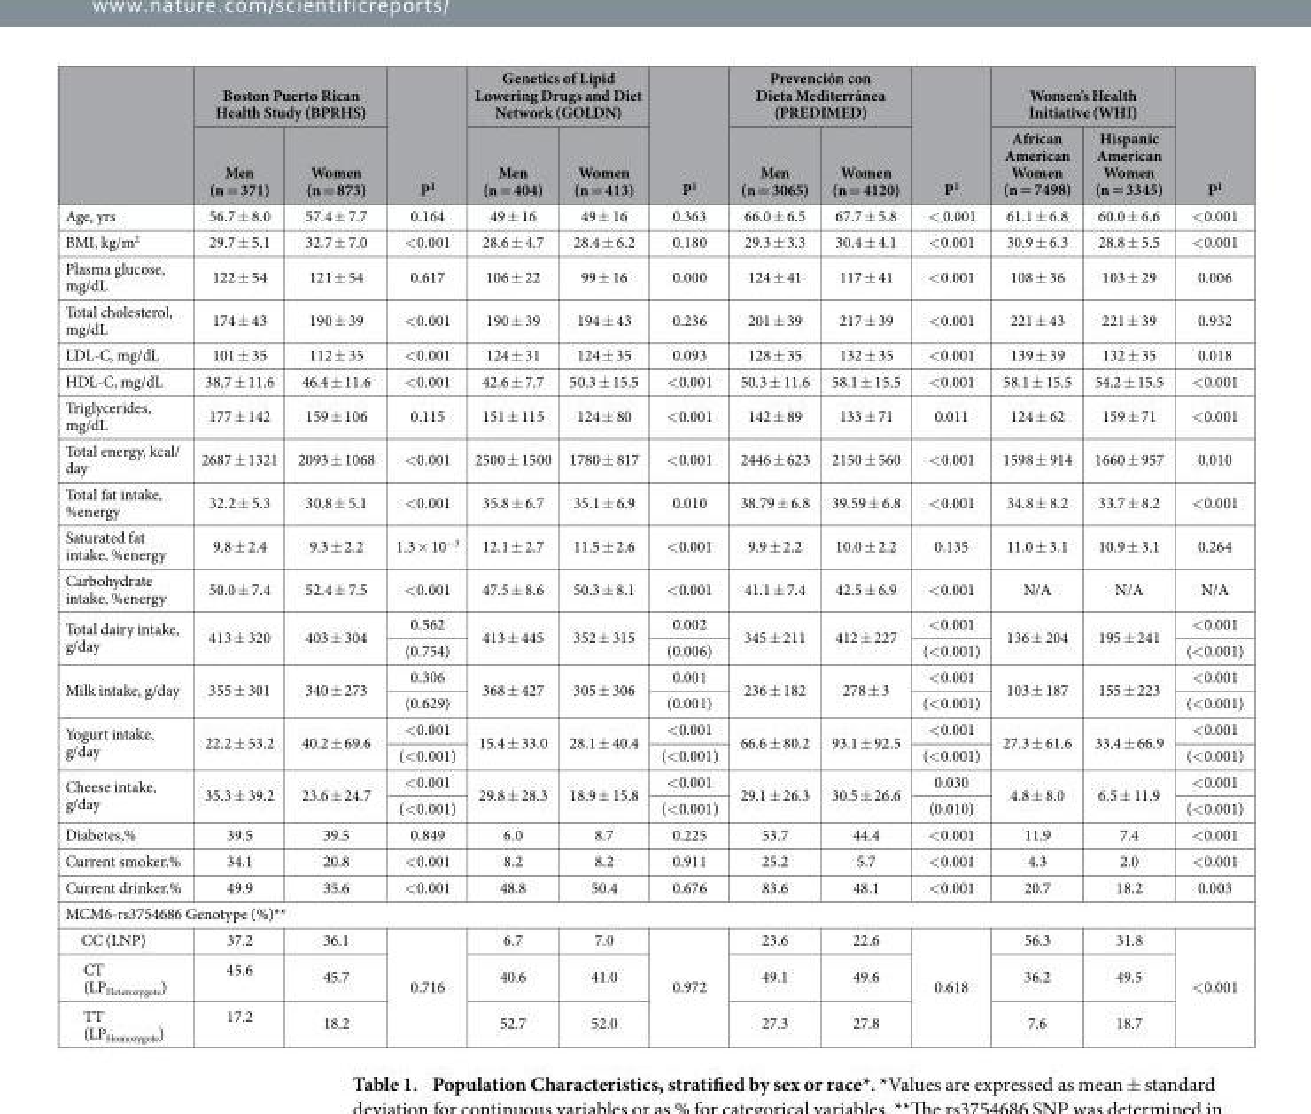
<table><thead><tr><td rowspan="2"></td><td colspan="2">Boston Puerto Rican Health Study (BPRHS)</td><td rowspan="2">P<sup>1</sup></td><td colspan="2">Genetics of Lipid Lowering Drugs and Diet Network (GOLDN)</td><td rowspan="2">P<sup>1</sup></td><td colspan="2">Prevención con Dieta Mediterránea (PREDIMED)</td><td rowspan="2">P<sup>1</sup></td><td colspan="2">Women’s Health Initiative (WHI)</td><td rowspan="2">P<sup>1</sup></td></tr><tr><td>Men (n = 371)</td><td>Women (n = 873)</td><td>Men (n = 404)</td><td>Women (n = 413)</td><td>Men (n = 3065)</td><td>Women (n = 4120)</td><td>African American Women (n = 7498)</td><td>Hispanic American Women (n = 3345)</td></tr></thead><tbody><tr><td>Age, yrs</td><td>56.7 ± 8.0</td><td>57.4 ± 7.7</td><td>0.164</td><td>49 ± 16</td><td>49 ± 16</td><td>0.363</td><td>66.0 ± 6.5</td><td>67.7 ± 5.8</td><td>&lt; 0.001</td><td>61.1 ± 6.8</td><td>60.0 ± 6.6</td><td>&lt; 0.001</td></tr><tr><td>BMI, kg/m<sup>2</sup></td><td>29.7 ± 5.1</td><td>32.7 ± 7.0</td><td>&lt; 0.001</td><td>28.6 ± 4.7</td><td>28.4 ± 6.2</td><td>0.180</td><td>29.3 ± 3.3</td><td>30.4 ± 4.1</td><td>&lt; 0.001</td><td>30.9 ± 6.3</td><td>28.8 ± 5.5</td><td>&lt; 0.001</td></tr><tr><td>Plasma glucose, mg/dL</td><td>122 ± 54</td><td>121 ± 54</td><td>0.617</td><td>106 ± 22</td><td>99 ± 16</td><td>0.000</td><td>124 ± 41</td><td>117 ± 41</td><td>&lt; 0.001</td><td>108 ± 36</td><td>103 ± 29</td><td>0.006</td></tr><tr><td>Total cholesterol, mg/dL</td><td>174 ± 43</td><td>190 ± 39</td><td>&lt; 0.001</td><td>190 ± 39</td><td>194 ± 43</td><td>0.236</td><td>201 ± 39</td><td>217 ± 39</td><td>&lt; 0.001</td><td>221 ± 43</td><td>221 ± 39</td><td>0.932</td></tr><tr><td>LDL-C, mg/dL</td><td>101 ± 35</td><td>112 ± 35</td><td>&lt; 0.001</td><td>124 ± 31</td><td>124 ± 35</td><td>0.093</td><td>128 ± 35</td><td>132 ± 35</td><td>&lt; 0.001</td><td>139 ± 39</td><td>132 ± 35</td><td>0.018</td></tr><tr><td>HDL-C, mg/dL</td><td>38.7 ± 11.6</td><td>46.4 ± 11.6</td><td>&lt; 0.001</td><td>42.6 ± 7.7</td><td>50.3 ± 15.5</td><td>&lt; 0.001</td><td>50.3 ± 11.6</td><td>58.1 ± 15.5</td><td>&lt; 0.001</td><td>58.1 ± 15.5</td><td>54.2 ± 15.5</td><td>&lt; 0.001</td></tr><tr><td>Triglycerides, mg/dL</td><td>177 ± 142</td><td>159 ± 106</td><td>0.115</td><td>151 ± 115</td><td>124 ± 80</td><td>&lt; 0.001</td><td>142 ± 89</td><td>133 ± 71</td><td>0.011</td><td>124 ± 62</td><td>159 ± 71</td><td>&lt; 0.001</td></tr><tr><td>Total energy, kcal/ day</td><td>2687 ± 1321</td><td>2093 ± 1068</td><td>&lt; 0.001</td><td>2500 ± 1500</td><td>1780 ± 817</td><td>&lt; 0.001</td><td>2446 ± 623</td><td>2150 ± 560</td><td>&lt; 0.001</td><td>1598 ± 914</td><td>1660 ± 957</td><td>0.010</td></tr><tr><td>Total fat intake, %energy</td><td>32.2 ± 5.3</td><td>30.8 ± 5.1</td><td>&lt; 0.001</td><td>35.8 ± 6.7</td><td>35.1 ± 6.9</td><td>0.010</td><td>38.79 ± 6.8</td><td>39.59 ± 6.8</td><td>&lt; 0.001</td><td>34.8 ± 8.2</td><td>33.7 ± 8.2</td><td>&lt; 0.001</td></tr><tr><td>Saturated fat intake, %energy</td><td>9.8 ± 2.4</td><td>9.3 ± 2.2</td><td>1.3 × 10<sup>−3</sup></td><td>12.1 ± 2.7</td><td>11.5 ± 2.6</td><td>&lt; 0.001</td><td>9.9 ± 2.2</td><td>10.0 ± 2.2</td><td>0.135</td><td>11.0 ± 3.1</td><td>10.9 ± 3.1</td><td>0.264</td></tr><tr><td>Carbohydrate intake, %energy</td><td>50.0 ± 7.4</td><td>52.4 ± 7.5</td><td>&lt; 0.001</td><td>47.5 ± 8.6</td><td>50.3 ± 8.1</td><td>&lt; 0.001</td><td>41.1 ± 7.4</td><td>42.5 ± 6.9</td><td>&lt; 0.001</td><td>N/A</td><td>N/A</td><td>N/A</td></tr><tr><td rowspan="2">Total dairy intake, g/day</td><td rowspan="2">413 ± 320</td><td rowspan="2">403 ± 304</td><td>0.562</td><td rowspan="2">413 ± 445</td><td rowspan="2">352 ± 315</td><td>0.002</td><td rowspan="2">345 ± 211</td><td rowspan="2">412 ± 227</td><td>&lt; 0.001</td><td rowspan="2">136 ± 204</td><td rowspan="2">195 ± 241</td><td>&lt; 0.001</td></tr><tr><td>(0.754)</td><td>(0.006)</td><td>(&lt; 0.001)</td><td>(&lt; 0.001)</td></tr><tr><td rowspan="2">Milk intake, g/day</td><td rowspan="2">355 ± 301</td><td rowspan="2">340 ± 273</td><td>0.306</td><td rowspan="2">368 ± 427</td><td rowspan="2">305 ± 306</td><td>0.001</td><td rowspan="2">236 ± 182</td><td rowspan="2">278 ± 3</td><td>&lt; 0.001</td><td rowspan="2">103 ± 187</td><td rowspan="2">155 ± 223</td><td>&lt; 0.001</td></tr><tr><td>(0.629)</td><td>(0.001)</td><td>(&lt; 0.001)</td><td>(&lt; 0.001)</td></tr><tr><td rowspan="2">Yogurt intake, g/day</td><td rowspan="2">22.2 ± 53.2</td><td rowspan="2">40.2 ± 69.6</td><td>&lt; 0.001</td><td rowspan="2">15.4 ± 33.0</td><td rowspan="2">28.1 ± 40.4</td><td>&lt; 0.001</td><td rowspan="2">66.6 ± 80.2</td><td rowspan="2">93.1 ± 92.5</td><td>&lt; 0.001</td><td rowspan="2">27.3 ± 61.6</td><td rowspan="2">33.4 ± 66.9</td><td>&lt; 0.001</td></tr><tr><td>(&lt; 0.001)</td><td>(&lt; 0.001)</td><td>(&lt; 0.001)</td><td>(&lt; 0.001)</td></tr><tr><td rowspan="2">Cheese intake, g/day</td><td rowspan="2">35.3 ± 39.2</td><td rowspan="2">23.6 ± 24.7</td><td>&lt; 0.001</td><td rowspan="2">29.8 ± 28.3</td><td rowspan="2">18.9 ± 15.8</td><td>&lt; 0.001</td><td rowspan="2">29.1 ± 26.3</td><td rowspan="2">30.5 ± 26.6</td><td>0.030</td><td rowspan="2">4.8 ± 8.0</td><td rowspan="2">6.5 ± 11.9</td><td>&lt; 0.001</td></tr><tr><td>(&lt; 0.001)</td><td>(&lt; 0.001)</td><td>(0.010)</td><td>(&lt; 0.001)</td></tr><tr><td>Diabetes,%</td><td>39.5</td><td>39.5</td><td>0.849</td><td>6.0</td><td>8.7</td><td>0.225</td><td>53.7</td><td>44.4</td><td>&lt; 0.001</td><td>11.9</td><td>7.4</td><td>&lt; 0.001</td></tr><tr><td>Current smoker,%</td><td>34.1</td><td>20.8</td><td>&lt; 0.001</td><td>8.2</td><td>8.2</td><td>0.911</td><td>25.2</td><td>5.7</td><td>&lt; 0.001</td><td>4.3</td><td>2.0</td><td>&lt; 0.001</td></tr><tr><td>Current drinker,%</td><td>49.9</td><td>35.6</td><td>&lt; 0.001</td><td>48.8</td><td>50.4</td><td>0.676</td><td>83.6</td><td>48.1</td><td>&lt; 0.001</td><td>20.7</td><td>18.2</td><td>0.003</td></tr><tr><td colspan="13">MCM6-rs3754686 Genotype (%)**</td></tr><tr><td>CC (LNP)</td><td>37.2</td><td>36.1</td><td rowspan="3">0.716</td><td>6.7</td><td>7.0</td><td rowspan="3">0.972</td><td>23.6</td><td>22.6</td><td rowspan="3">0.618</td><td>56.3</td><td>31.8</td><td rowspan="3">&lt; 0.001</td></tr><tr><td>CT (LP<sub>Heterozygote</sub>)</td><td>45.6</td><td>45.7</td><td>40.6</td><td>41.0</td><td>49.1</td><td>49.6</td><td>36.2</td><td>49.5</td></tr><tr><td>TT (LP<sub>Homozygote</sub>)</td><td>17.2</td><td>18.2</td><td>52.7</td><td>52.0</td><td>27.3</td><td>27.8</td><td>7.6</td><td>18.7</td></tr></tbody></table>